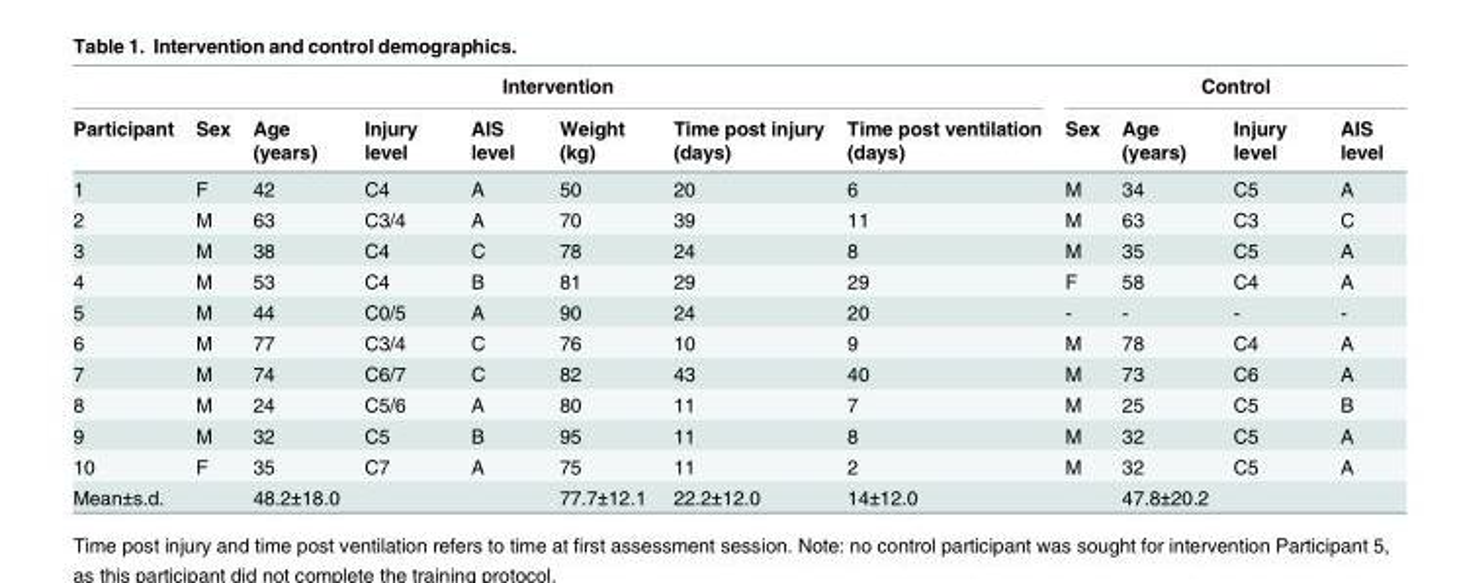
<table><thead><tr><td colspan="8">Intervention</td><td colspan="4">Control</td></tr><tr><td>Participant</td><td>Sex</td><td>Age (years)</td><td>Injury level</td><td>AIS level</td><td>Weight (kg)</td><td>Time post injury (days)</td><td>Time post ventilation (days)</td><td>Sex</td><td>Age (years)</td><td>Injury level</td><td>AIS level</td></tr></thead><tbody><tr><td>1</td><td>F</td><td>42</td><td>C4</td><td>A</td><td>50</td><td>20</td><td>6</td><td>M</td><td>34</td><td>C5</td><td>A</td></tr><tr><td>2</td><td>M</td><td>63</td><td>C3/4</td><td>A</td><td>70</td><td>39</td><td>11</td><td>M</td><td>63</td><td>C3</td><td>C</td></tr><tr><td>3</td><td>M</td><td>38</td><td>C4</td><td>C</td><td>78</td><td>24</td><td>8</td><td>M</td><td>35</td><td>C5</td><td>A</td></tr><tr><td>4</td><td>M</td><td>53</td><td>C4</td><td>B</td><td>81</td><td>29</td><td>29</td><td>F</td><td>58</td><td>C4</td><td>A</td></tr><tr><td>5</td><td>M</td><td>44</td><td>C0/5</td><td>A</td><td>90</td><td>24</td><td>20</td><td>-</td><td>-</td><td>-</td><td>-</td></tr><tr><td>6</td><td>M</td><td>77</td><td>C3/4</td><td>C</td><td>76</td><td>10</td><td>9</td><td>M</td><td>78</td><td>C4</td><td>A</td></tr><tr><td>7</td><td>M</td><td>74</td><td>C6/7</td><td>C</td><td>82</td><td>43</td><td>40</td><td>M</td><td>73</td><td>C6</td><td>A</td></tr><tr><td>8</td><td>M</td><td>24</td><td>C5/6</td><td>A</td><td>80</td><td>11</td><td>7</td><td>M</td><td>25</td><td>C5</td><td>B</td></tr><tr><td>9</td><td>M</td><td>32</td><td>C5</td><td>B</td><td>95</td><td>11</td><td>8</td><td>M</td><td>32</td><td>C5</td><td>A</td></tr><tr><td>10</td><td>F</td><td>35</td><td>C7</td><td>A</td><td>75</td><td>11</td><td>2</td><td>M</td><td>32</td><td>C5</td><td>A</td></tr><tr><td>Mean±s.d.</td><td></td><td>48.2±18.0</td><td></td><td></td><td>77.7±12.1</td><td>22.2±12.0</td><td>14±12.0</td><td></td><td>47.8±20.2</td><td></td><td></td></tr></tbody></table>